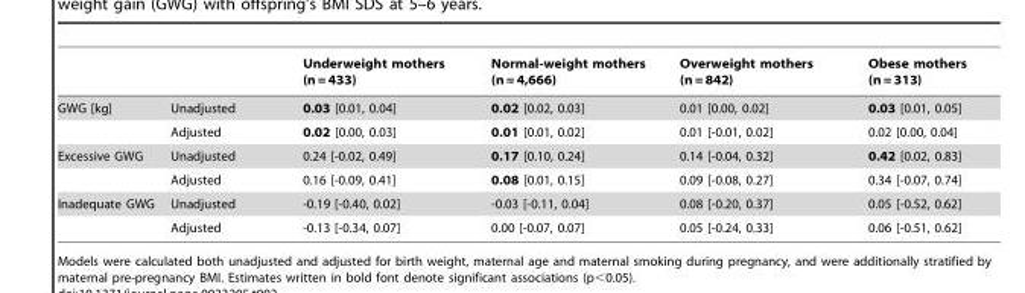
<table><thead><tr><td></td><td></td><td>Underweight mothers (n = 433)</td><td>Normal-weight mothers (n = 4,666)</td><td>Overweight mothers (n = 842)</td><td>Obese mothers (n = 313)</td></tr></thead><tbody><tr><td rowspan="2">GWG [kg]</td><td>Unadjusted</td><td>0.03 [0.01, 0.04]</td><td>0.02 [0.02, 0.03]</td><td>0.01 [0.00, 0.02]</td><td>0.03 [0.01, 0.05]</td></tr><tr><td>Adjusted</td><td>0.02 [0.00, 0.03]</td><td>0.01 [0.01, 0.02]</td><td>0.01 [-0.01, 0.02]</td><td>0.02 [0.00, 0.04]</td></tr><tr><td rowspan="2">Excessive GWG</td><td>Unadjusted</td><td>0.24 [-0.02, 0.49]</td><td>0.17 [0.10, 0.24]</td><td>0.14 [-0.04, 0.32]</td><td>0.42 [0.02, 0.83]</td></tr><tr><td>Adjusted</td><td>0.16 [-0.09, 0.41]</td><td>0.08 [0.01, 0.15]</td><td>0.09 [-0.08, 0.27]</td><td>0.34 [-0.07, 0.74]</td></tr><tr><td rowspan="2">Inadequate GWG</td><td>Unadjusted</td><td>-0.19 [-0.40, 0.02]</td><td>-0.03 [-0.11, 0.04]</td><td>0.08 [-0.20, 0.37]</td><td>0.05 [-0.52, 0.62]</td></tr><tr><td>Adjusted</td><td>-0.13 [-0.34, 0.07]</td><td>0.00 [-0.07, 0.07]</td><td>0.05 [-0.24, 0.33]</td><td>0.06 [-0.51, 0.62]</td></tr></tbody></table>